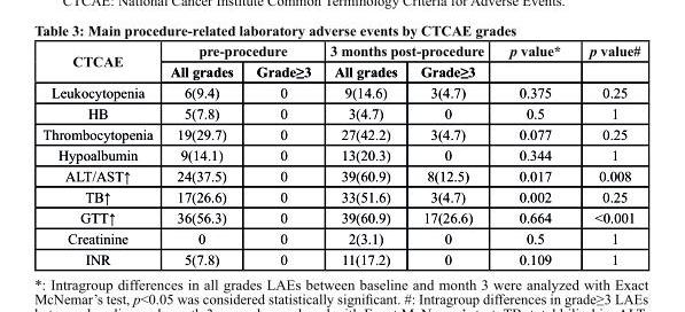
<table><thead><tr><td rowspan="2">ctcAe</td><td colspan="2">pre-procedure</td><td colspan="2">3 months post-procedure</td><td rowspan="2">p value*</td><td rowspan="2">p value#</td></tr><tr><td>All grades</td><td>Grade≥3</td><td>All grades</td><td>Grade≥3</td></tr></thead><tbody><tr><td>Leukocytopenia</td><td>6(9.4)</td><td>0</td><td>9(14.6)</td><td>3(4.7)</td><td>0.375</td><td>0.25</td></tr><tr><td>HB</td><td>5(7.8)</td><td>0</td><td>3(4.7)</td><td>0</td><td>0.5</td><td>1</td></tr><tr><td>Thrombocytopenia</td><td>19(29.7)</td><td>0</td><td>27(42.2)</td><td>3(4.7)</td><td>0.077</td><td>0.25</td></tr><tr><td>Hypoalbumin</td><td>9(14.1)</td><td>0</td><td>13(20.3)</td><td>0</td><td>0.344</td><td>1</td></tr><tr><td>ALT/AST↑</td><td>24(37.5)</td><td>0</td><td>39(60.9)</td><td>8(12.5)</td><td>0.017</td><td>0.008</td></tr><tr><td>TB↑</td><td>17(26.6)</td><td>0</td><td>33(51.6)</td><td>3(4.7)</td><td>0.002</td><td>0.25</td></tr><tr><td>GTT↑</td><td>36(56.3)</td><td>0</td><td>39(60.9)</td><td>17(26.6)</td><td>0.664</td><td>&lt;0.001</td></tr><tr><td>Creatinine</td><td>0</td><td>0</td><td>2(3.1)</td><td>0</td><td>0.5</td><td>1</td></tr><tr><td>INR</td><td>5(7.8)</td><td>0</td><td>11(17.2)</td><td>0</td><td>0.109</td><td>1</td></tr></tbody></table>